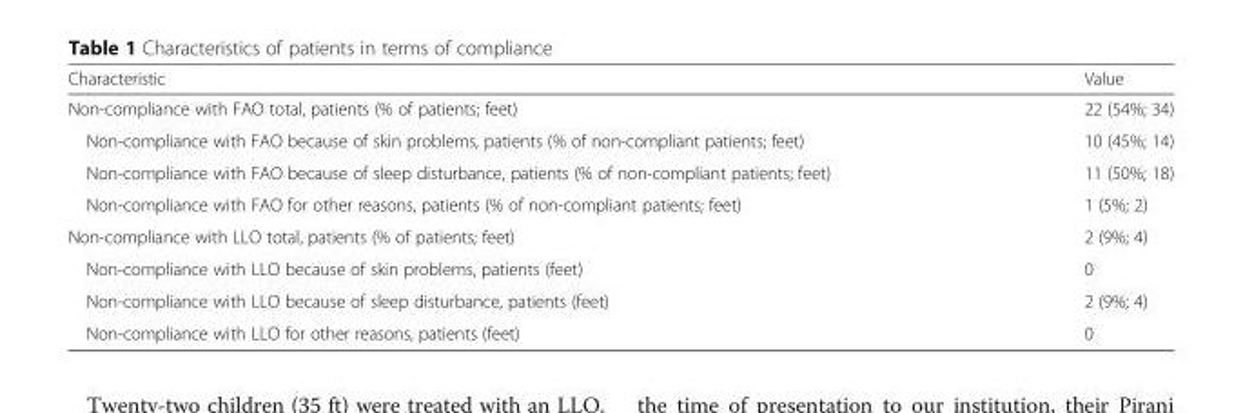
<table><thead><tr><td>Characteristic</td><td>Value</td></tr></thead><tbody><tr><td>Non-compliance with FAO total, patients (% of patients; feet)</td><td>22 (54%; 34)</td></tr><tr><td>Non-compliance with FAO because of skin problems, patients (% of non-compliant patients; feet)</td><td>10 (45%; 14)</td></tr><tr><td>Non-compliance with FAO because of sleep disturbance, patients (% of non-compliant patients; feet)</td><td>11 (50%; 18)</td></tr><tr><td>Non-compliance with FAO for other reasons, patients (% of non-compliant patients; feet)</td><td>1 (5%; 2)</td></tr><tr><td>Non-compliance with LLO total, patients (% of patients; feet)</td><td>2 (9%; 4)</td></tr><tr><td>Non-compliance with LLO because of skin problems, patients (feet)</td><td>0</td></tr><tr><td>Non-compliance with LLO because of sleep disturbance, patients (feet)</td><td>2 (9%; 4)</td></tr><tr><td>Non-compliance with LLO for other reasons, patients (feet)</td><td>0</td></tr></tbody></table>